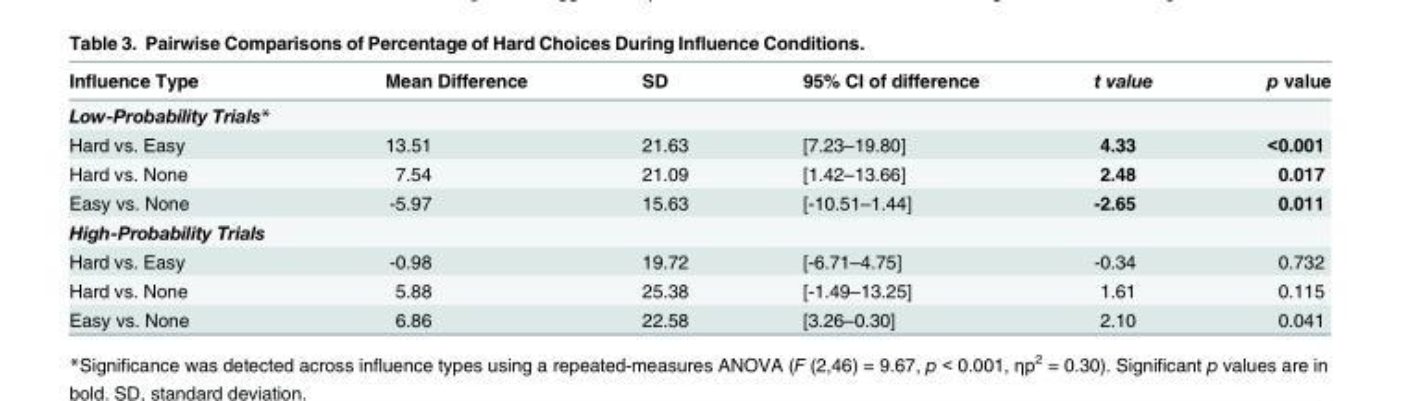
<table><thead><tr><td>Influence Type</td><td>Mean Difference</td><td>SD</td><td>95% CI of difference</td><td>t value</td><td>p value</td></tr></thead><tbody><tr><td colspan="6">Low-Probability Trials*</td></tr><tr><td>Hard vs. Easy</td><td>13.51</td><td>21.63</td><td>[7.23–19.80]</td><td>4.33</td><td>&lt;0.001</td></tr><tr><td>Hard vs. None</td><td>7.54</td><td>21.09</td><td>[1.42–13.66]</td><td>2.48</td><td>0.017</td></tr><tr><td>Easy vs. None</td><td>-5.97</td><td>15.63</td><td>[-10.51–1.44]</td><td>-2.65</td><td>0.011</td></tr><tr><td colspan="6">High-Probability Trials</td></tr><tr><td>Hard vs. Easy</td><td>-0.98</td><td>19.72</td><td>[-6.71–4.75]</td><td>-0.34</td><td>0.732</td></tr><tr><td>Hard vs. None</td><td>5.88</td><td>25.38</td><td>[-1.49–13.25]</td><td>1.61</td><td>0.115</td></tr><tr><td>Easy vs. None</td><td>6.86</td><td>22.58</td><td>[3.26–0.30]</td><td>2.10</td><td>0.041</td></tr></tbody></table>